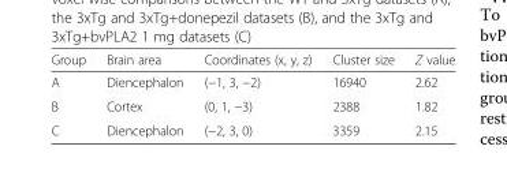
<table><thead><tr><td>Group</td><td>Brain area</td><td>Coordinates (x, y, z)</td><td>Cluster size</td><td>Z value</td></tr></thead><tbody><tr><td>A</td><td>Diencephalon</td><td>(−1, 3, −2)</td><td>16940</td><td>2.62</td></tr><tr><td>B</td><td>Cortex</td><td>(0, 1, −3)</td><td>2388</td><td>1.82</td></tr><tr><td>C</td><td>Diencephalon</td><td>(−2, 3, 0)</td><td>3359</td><td>2.15</td></tr></tbody></table>